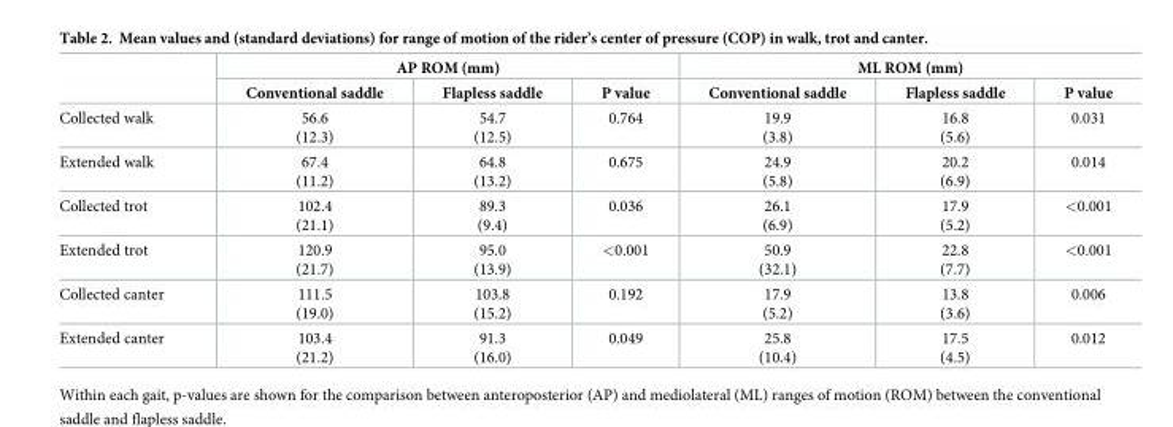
<table><thead><tr><td rowspan="2"></td><td colspan="3">AP ROM (mm)</td><td colspan="3">ML ROM (mm)</td></tr><tr><td>Conventional saddle</td><td>Flapless saddle</td><td>P value</td><td>Conventional saddle</td><td>Flapless saddle</td><td>P value</td></tr></thead><tbody><tr><td>Collected walk</td><td>56.6 (12.3)</td><td>54.7 (12.5)</td><td>0.764</td><td>19.9 (3.8)</td><td>16.8 (5.6)</td><td>0.031</td></tr><tr><td>Extended walk</td><td>67.4 (11.2)</td><td>64.8 (13.2)</td><td>0.675</td><td>24.9 (5.8)</td><td>20.2 (6.9)</td><td>0.014</td></tr><tr><td>Collected trot</td><td>102.4 (21.1)</td><td>89.3 (9.4)</td><td>0.036</td><td>26.1 (6.9)</td><td>17.9 (5.2)</td><td>&lt;0.001</td></tr><tr><td>Extended trot</td><td>120.9 (21.7)</td><td>95.0 (13.9)</td><td>&lt;0.001</td><td>50.9 (32.1)</td><td>22.8 (7.7)</td><td>&lt;0.001</td></tr><tr><td>Collected canter</td><td>111.5 (19.0)</td><td>103.8 (15.2)</td><td>0.192</td><td>17.9 (5.2)</td><td>13.8 (3.6)</td><td>0.006</td></tr><tr><td>Extended canter</td><td>103.4 (21.2)</td><td>91.3 (16.0)</td><td>0.049</td><td>25.8 (10.4)</td><td>17.5 (4.5)</td><td>0.012</td></tr></tbody></table>